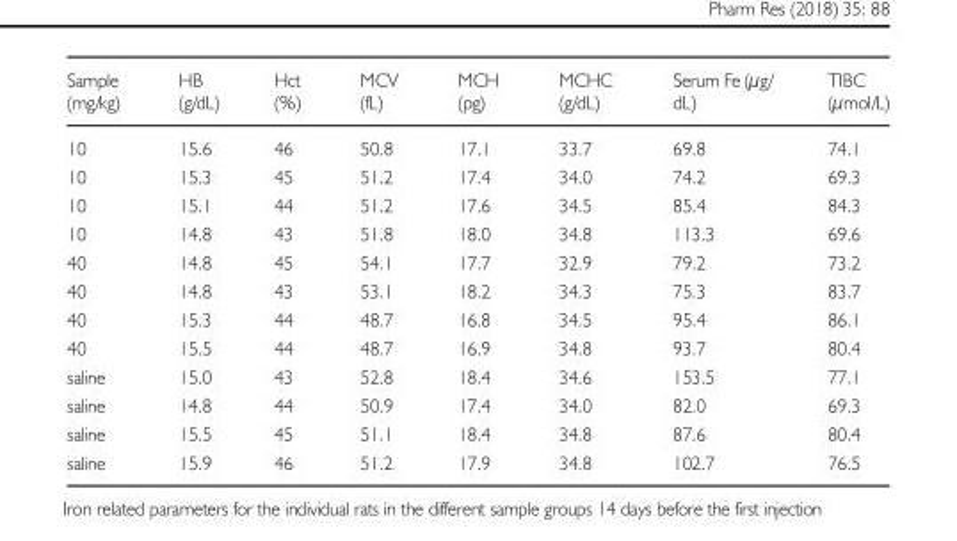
<table><thead><tr><td>Sample (mg/kg)</td><td>HB (g/dL)</td><td>Hct (%)</td><td>MCV (fL)</td><td>MCH (pg)</td><td>MCHC (g/dL)</td><td>Serum Fe (μg/ dL)</td><td>TIBC (μmol/L)</td></tr></thead><tbody><tr><td>10</td><td>15.6</td><td>46</td><td>50.8</td><td>17.1</td><td>33.7</td><td>69.8</td><td>74.1</td></tr><tr><td>10</td><td>15.3</td><td>45</td><td>51.2</td><td>17.4</td><td>34.0</td><td>74.2</td><td>69.3</td></tr><tr><td>10</td><td>15.1</td><td>44</td><td>51.2</td><td>17.6</td><td>34.5</td><td>85.4</td><td>84.3</td></tr><tr><td>10</td><td>14.8</td><td>43</td><td>51.8</td><td>18.0</td><td>34.8</td><td>113.3</td><td>69.6</td></tr><tr><td>40</td><td>14.8</td><td>45</td><td>54.1</td><td>17.7</td><td>32.9</td><td>79.2</td><td>73.2</td></tr><tr><td>40</td><td>14.8</td><td>43</td><td>53.1</td><td>18.2</td><td>34.3</td><td>75.3</td><td>83.7</td></tr><tr><td>40</td><td>15.3</td><td>44</td><td>48.7</td><td>16.8</td><td>34.5</td><td>95.4</td><td>86.1</td></tr><tr><td>40</td><td>15.5</td><td>44</td><td>48.7</td><td>16.9</td><td>34.8</td><td>93.7</td><td>80.4</td></tr><tr><td>saline</td><td>15.0</td><td>43</td><td>52.8</td><td>18.4</td><td>34.6</td><td>153.5</td><td>77.1</td></tr><tr><td>saline</td><td>14.8</td><td>44</td><td>50.9</td><td>17.4</td><td>34.0</td><td>82.0</td><td>69.3</td></tr><tr><td>saline</td><td>15.5</td><td>45</td><td>51.1</td><td>18.4</td><td>34.8</td><td>87.6</td><td>80.4</td></tr><tr><td>saline</td><td>15.9</td><td>46</td><td>51.2</td><td>17.9</td><td>34.8</td><td>102.7</td><td>76.5</td></tr></tbody></table>